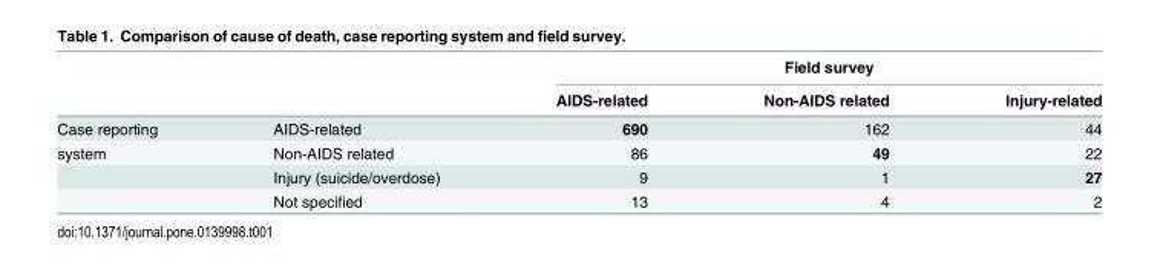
<table><thead><tr><td rowspan="2"></td><td rowspan="2"></td><td colspan="3">Field survey</td></tr><tr><td>AIDS-related</td><td>Non-AIDS related</td><td>Injury-related</td></tr></thead><tbody><tr><td>Case reporting</td><td>AIDS-related</td><td>690</td><td>162</td><td>44</td></tr><tr><td rowspan="3">system</td><td>Non-AIDS related</td><td>86</td><td>49</td><td>22</td></tr><tr><td>Injury (suicide/overdose)</td><td>9</td><td>1</td><td>27</td></tr><tr><td>Not specified</td><td>13</td><td>4</td><td>2</td></tr></tbody></table>